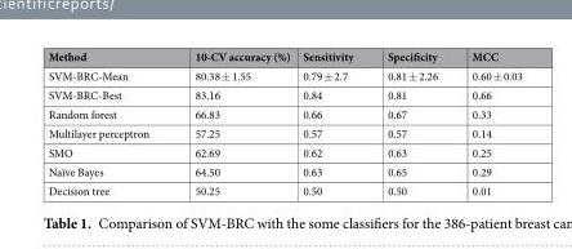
<table><thead><tr><td>Method</td><td>10-CV accuracy (%)</td><td>Sensitivity</td><td>Specificity</td><td>MCC</td></tr></thead><tbody><tr><td>SVM-BRC-Mean</td><td>80.38 ± 1.55</td><td>0.79 ± 2.7</td><td>0.81 ± 2.26</td><td>0.60 ± 0.03</td></tr><tr><td>SVM-BRC-Best</td><td>83.16</td><td>0.84</td><td>0.81</td><td>0.66</td></tr><tr><td>Random forest</td><td>66.83</td><td>0.66</td><td>0.67</td><td>0.33</td></tr><tr><td>Multilayer perceptron</td><td>57.25</td><td>0.57</td><td>0.57</td><td>0.14</td></tr><tr><td>SMO</td><td>62.69</td><td>0.62</td><td>0.63</td><td>0.25</td></tr><tr><td>Naïve Bayes</td><td>64.50</td><td>0.63</td><td>0.65</td><td>0.29</td></tr><tr><td>Decision tree</td><td>50.25</td><td>0.50</td><td>0.50</td><td>0.01</td></tr></tbody></table>